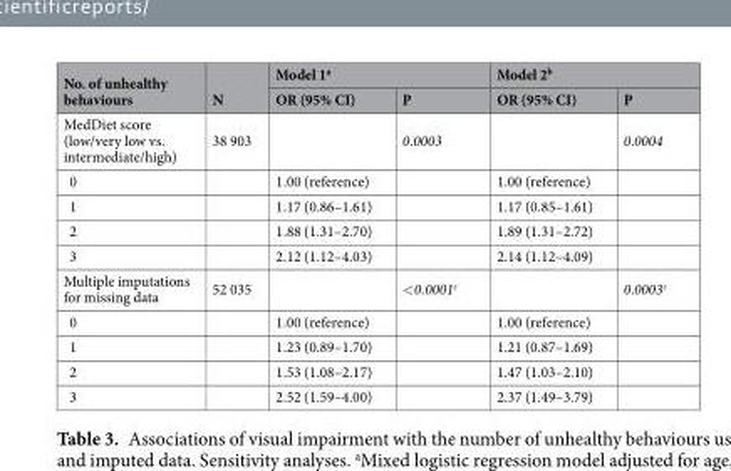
<table><thead><tr><td rowspan="2">No. of unhealthy behaviours</td><td rowspan="2">N</td><td colspan="2">Model 1<sup>a</sup></td><td colspan="2">Model 2<sup>b</sup></td></tr><tr><td>OR (95% CI)</td><td>P</td><td>OR (95% CI)</td><td>P</td></tr></thead><tbody><tr><td>MedDiet score (low/very low vs. intermediate/high)</td><td>38 903</td><td></td><td>0.0003</td><td></td><td>0.0004</td></tr><tr><td>0</td><td></td><td>1.00 (reference)</td><td></td><td>1.00 (reference)</td><td></td></tr><tr><td>1</td><td></td><td>1.17 (0.86–1.61)</td><td></td><td>1.17 (0.85–1.61)</td><td></td></tr><tr><td>2</td><td></td><td>1.88 (1.31–2.70)</td><td></td><td>1.89 (1.31–2.72)</td><td></td></tr><tr><td>3</td><td></td><td>2.12 (1.12–4.03)</td><td></td><td>2.14 (1.12–4.09)</td><td></td></tr><tr><td>Multiple imputations for missing data</td><td>52 035</td><td></td><td>&lt;0.0001<sup>c</sup></td><td></td><td>0.0003<sup>c</sup></td></tr><tr><td>0</td><td></td><td>1.00 (reference)</td><td></td><td>1.00 (reference)</td><td></td></tr><tr><td>1</td><td></td><td>1.23 (0.89–1.70)</td><td></td><td>1.21 (0.87–1.69)</td><td></td></tr><tr><td>2</td><td></td><td>1.53 (1.08–2.17)</td><td></td><td>1.47 (1.03–2.10)</td><td></td></tr><tr><td>3</td><td></td><td>2.52 (1.59–4.00)</td><td></td><td>2.37 (1.49–3.79)</td><td></td></tr></tbody></table>